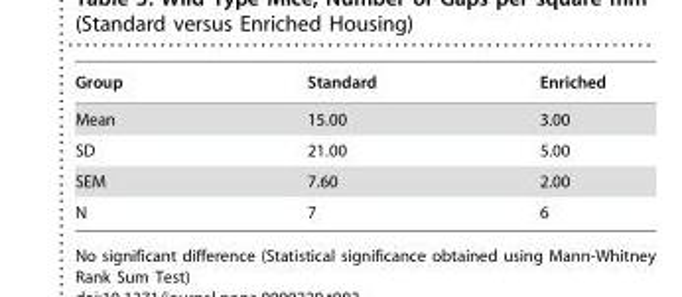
<table><thead><tr><td>Group</td><td>Standard</td><td>Enriched</td></tr></thead><tbody><tr><td>Mean</td><td>15.00</td><td>3.00</td></tr><tr><td>SD</td><td>21.00</td><td>5.00</td></tr><tr><td>SEM</td><td>7.60</td><td>2.00</td></tr><tr><td>N</td><td>7</td><td>6</td></tr></tbody></table>